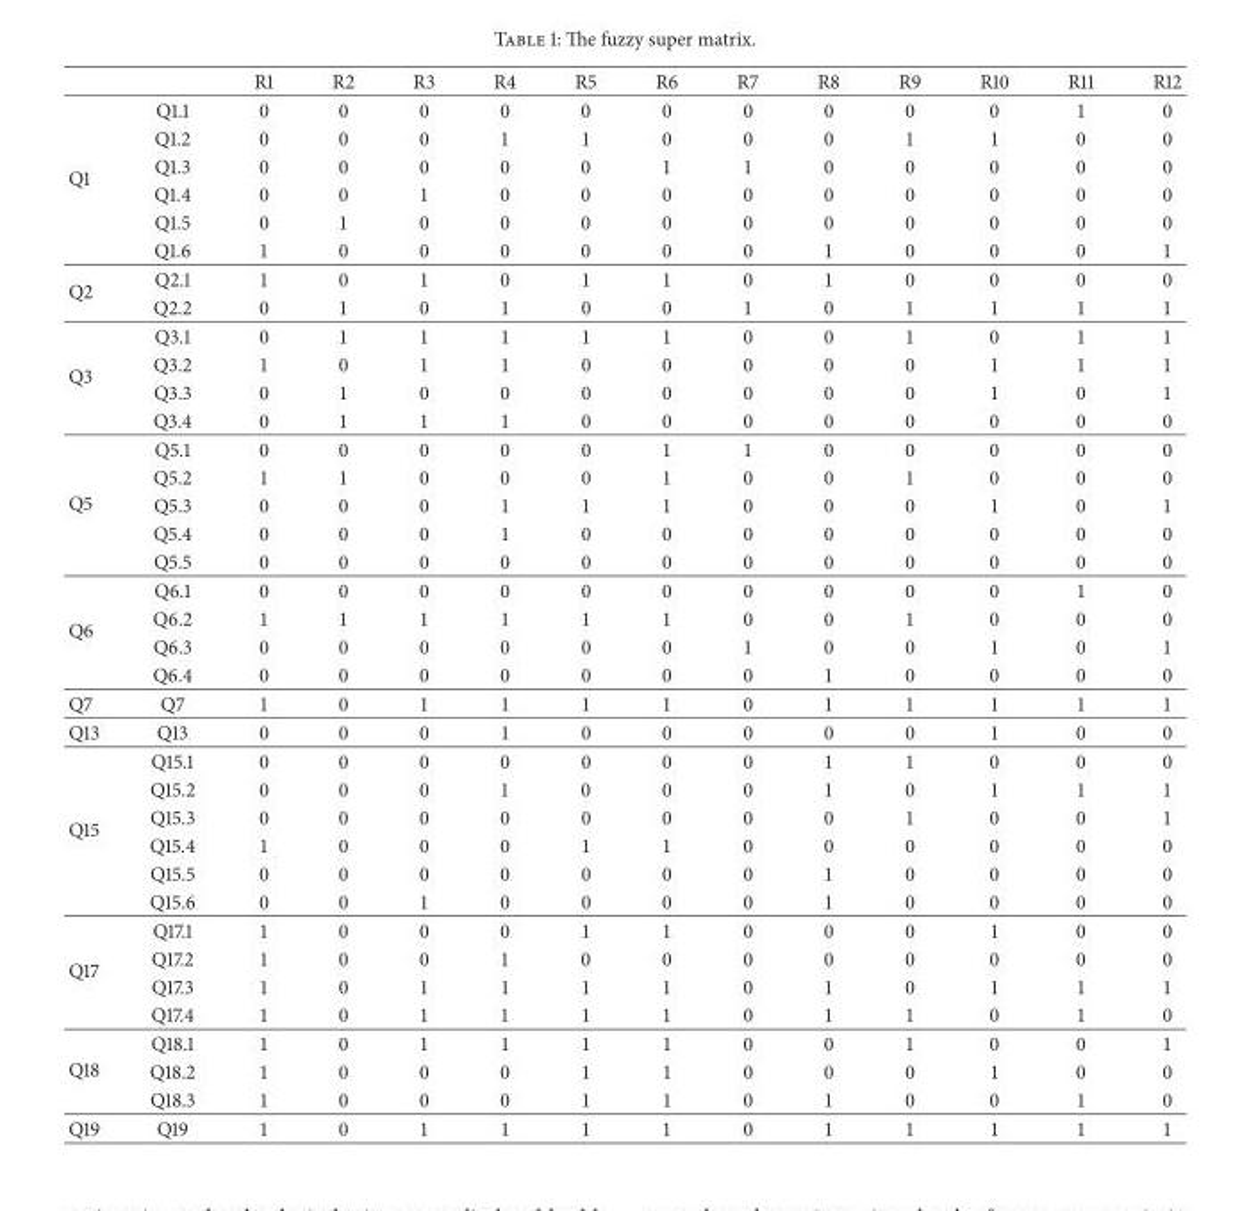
<table><thead><tr><td></td><td></td><td>R1</td><td>R2</td><td>R3</td><td>R4</td><td>R5</td><td>R6</td><td>R7</td><td>R8</td><td>R9</td><td>R10</td><td>R11</td><td>R12</td></tr></thead><tbody><tr><td rowspan="6">Q1</td><td>Q1.1</td><td>0</td><td>0</td><td>0</td><td>0</td><td>0</td><td>0</td><td>0</td><td>0</td><td>0</td><td>0</td><td>1</td><td>0</td></tr><tr><td>Q1.2</td><td>0</td><td>0</td><td>0</td><td>1</td><td>1</td><td>0</td><td>0</td><td>0</td><td>1</td><td>1</td><td>0</td><td>0</td></tr><tr><td>Q1.3</td><td>0</td><td>0</td><td>0</td><td>0</td><td>0</td><td>1</td><td>1</td><td>0</td><td>0</td><td>0</td><td>0</td><td>0</td></tr><tr><td>Q1.4</td><td>0</td><td>0</td><td>1</td><td>0</td><td>0</td><td>0</td><td>0</td><td>0</td><td>0</td><td>0</td><td>0</td><td>0</td></tr><tr><td>Q1.5</td><td>0</td><td>1</td><td>0</td><td>0</td><td>0</td><td>0</td><td>0</td><td>0</td><td>0</td><td>0</td><td>0</td><td>0</td></tr><tr><td>Q1.6</td><td>1</td><td>0</td><td>0</td><td>0</td><td>0</td><td>0</td><td>0</td><td>1</td><td>0</td><td>0</td><td>0</td><td>1</td></tr><tr><td rowspan="2">Q2</td><td>Q2.1</td><td>1</td><td>0</td><td>1</td><td>0</td><td>1</td><td>1</td><td>0</td><td>1</td><td>0</td><td>0</td><td>0</td><td>0</td></tr><tr><td>Q2.2</td><td>0</td><td>1</td><td>0</td><td>1</td><td>0</td><td>0</td><td>1</td><td>0</td><td>1</td><td>1</td><td>1</td><td>1</td></tr><tr><td rowspan="4">Q3</td><td>Q3.1</td><td>0</td><td>1</td><td>1</td><td>1</td><td>1</td><td>1</td><td>0</td><td>0</td><td>1</td><td>0</td><td>1</td><td>1</td></tr><tr><td>Q3.2</td><td>1</td><td>0</td><td>1</td><td>1</td><td>0</td><td>0</td><td>0</td><td>0</td><td>0</td><td>1</td><td>1</td><td>1</td></tr><tr><td>Q3.3</td><td>0</td><td>1</td><td>0</td><td>0</td><td>0</td><td>0</td><td>0</td><td>0</td><td>0</td><td>1</td><td>0</td><td>1</td></tr><tr><td>Q3.4</td><td>0</td><td>1</td><td>1</td><td>1</td><td>0</td><td>0</td><td>0</td><td>0</td><td>0</td><td>0</td><td>0</td><td>0</td></tr><tr><td rowspan="5">Q5</td><td>Q5.1</td><td>0</td><td>0</td><td>0</td><td>0</td><td>0</td><td>1</td><td>1</td><td>0</td><td>0</td><td>0</td><td>0</td><td>0</td></tr><tr><td>Q5.2</td><td>1</td><td>1</td><td>0</td><td>0</td><td>0</td><td>1</td><td>0</td><td>0</td><td>1</td><td>0</td><td>0</td><td>0</td></tr><tr><td>Q5.3</td><td>0</td><td>0</td><td>0</td><td>1</td><td>1</td><td>1</td><td>0</td><td>0</td><td>0</td><td>1</td><td>0</td><td>1</td></tr><tr><td>Q5.4</td><td>0</td><td>0</td><td>0</td><td>1</td><td>0</td><td>0</td><td>0</td><td>0</td><td>0</td><td>0</td><td>0</td><td>0</td></tr><tr><td>Q5.5</td><td>0</td><td>0</td><td>0</td><td>0</td><td>0</td><td>0</td><td>0</td><td>0</td><td>0</td><td>0</td><td>0</td><td>0</td></tr><tr><td rowspan="4">Q6</td><td>Q6.1</td><td>0</td><td>0</td><td>0</td><td>0</td><td>0</td><td>0</td><td>0</td><td>0</td><td>0</td><td>0</td><td>1</td><td>0</td></tr><tr><td>Q6.2</td><td>1</td><td>1</td><td>1</td><td>1</td><td>1</td><td>1</td><td>0</td><td>0</td><td>1</td><td>0</td><td>0</td><td>0</td></tr><tr><td>Q6.3</td><td>0</td><td>0</td><td>0</td><td>0</td><td>0</td><td>0</td><td>1</td><td>0</td><td>0</td><td>1</td><td>0</td><td>1</td></tr><tr><td>Q6.4</td><td>0</td><td>0</td><td>0</td><td>0</td><td>0</td><td>0</td><td>0</td><td>1</td><td>0</td><td>0</td><td>0</td><td>0</td></tr><tr><td>Q7</td><td>Q7</td><td>1</td><td>0</td><td>1</td><td>1</td><td>1</td><td>1</td><td>0</td><td>1</td><td>1</td><td>1</td><td>1</td><td>1</td></tr><tr><td>Q13</td><td>Q13</td><td>0</td><td>0</td><td>0</td><td>1</td><td>0</td><td>0</td><td>0</td><td>0</td><td>0</td><td>1</td><td>0</td><td>0</td></tr><tr><td rowspan="6">Q15</td><td>Q15.1</td><td>0</td><td>0</td><td>0</td><td>0</td><td>0</td><td>0</td><td>0</td><td>1</td><td>1</td><td>0</td><td>0</td><td>0</td></tr><tr><td>Q15.2</td><td>0</td><td>0</td><td>0</td><td>1</td><td>0</td><td>0</td><td>0</td><td>1</td><td>0</td><td>1</td><td>1</td><td>1</td></tr><tr><td>Q15.3</td><td>0</td><td>0</td><td>0</td><td>0</td><td>0</td><td>0</td><td>0</td><td>0</td><td>1</td><td>0</td><td>0</td><td>1</td></tr><tr><td>Q15.4</td><td>1</td><td>0</td><td>0</td><td>0</td><td>1</td><td>1</td><td>0</td><td>0</td><td>0</td><td>0</td><td>0</td><td>0</td></tr><tr><td>Q15.5</td><td>0</td><td>0</td><td>0</td><td>0</td><td>0</td><td>0</td><td>0</td><td>1</td><td>0</td><td>0</td><td>0</td><td>0</td></tr><tr><td>Q15.6</td><td>0</td><td>0</td><td>1</td><td>0</td><td>0</td><td>0</td><td>0</td><td>1</td><td>0</td><td>0</td><td>0</td><td>0</td></tr><tr><td rowspan="4">Q17</td><td>Q17.1</td><td>1</td><td>0</td><td>0</td><td>0</td><td>1</td><td>1</td><td>0</td><td>0</td><td>0</td><td>1</td><td>0</td><td>0</td></tr><tr><td>Q17.2</td><td>1</td><td>0</td><td>0</td><td>1</td><td>0</td><td>0</td><td>0</td><td>0</td><td>0</td><td>0</td><td>0</td><td>0</td></tr><tr><td>Q17.3</td><td>1</td><td>0</td><td>1</td><td>1</td><td>1</td><td>1</td><td>0</td><td>1</td><td>0</td><td>1</td><td>1</td><td>1</td></tr><tr><td>Q17.4</td><td>1</td><td>0</td><td>1</td><td>1</td><td>1</td><td>1</td><td>0</td><td>1</td><td>1</td><td>0</td><td>1</td><td>0</td></tr><tr><td rowspan="3">Q18</td><td>Q18.1</td><td>1</td><td>0</td><td>1</td><td>1</td><td>1</td><td>1</td><td>0</td><td>0</td><td>1</td><td>0</td><td>0</td><td>1</td></tr><tr><td>Q18.2</td><td>1</td><td>0</td><td>0</td><td>0</td><td>1</td><td>1</td><td>0</td><td>0</td><td>0</td><td>1</td><td>0</td><td>0</td></tr><tr><td>Q18.3</td><td>1</td><td>0</td><td>0</td><td>0</td><td>1</td><td>1</td><td>0</td><td>1</td><td>0</td><td>0</td><td>1</td><td>0</td></tr><tr><td>Q19</td><td>Q19</td><td>1</td><td>0</td><td>1</td><td>1</td><td>1</td><td>1</td><td>0</td><td>1</td><td>1</td><td>1</td><td>1</td><td>1</td></tr></tbody></table>